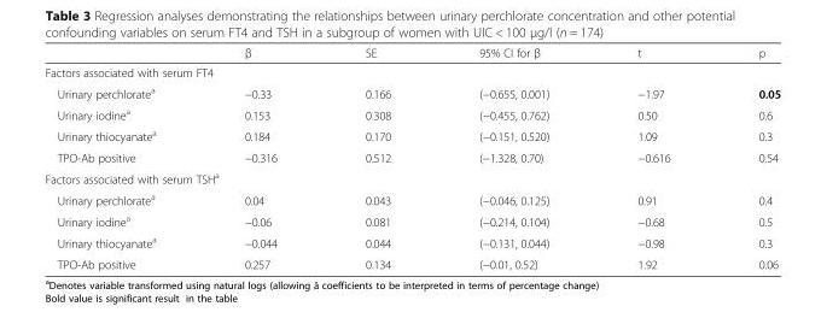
<table><thead><tr><td></td><td>β</td><td>SE</td><td>95% CI for β</td><td>t</td><td>p</td></tr></thead><tbody><tr><td colspan="6">Factors associated with serum FT4</td></tr><tr><td>Urinary perchlorate<sup>a</sup></td><td>−0.33</td><td>0.166</td><td>(−0.655, 0.001)</td><td>−1.97</td><td>0.05</td></tr><tr><td>Urinary iodine<sup>a</sup></td><td>0.153</td><td>0.308</td><td>(−0.455, 0.762)</td><td>0.50</td><td>0.6</td></tr><tr><td>Urinary thiocyanate<sup>a</sup></td><td>0.184</td><td>0.170</td><td>(−0.151, 0.520)</td><td>1.09</td><td>0.3</td></tr><tr><td>TPO-Ab positive</td><td>−0.316</td><td>0.512</td><td>(−1.328, 0.70)</td><td>−0.616</td><td>0.54</td></tr><tr><td colspan="6">Factors associated with serum TSH<sup>a</sup></td></tr><tr><td>Urinary perchlorate<sup>a</sup></td><td>0.04</td><td>0.043</td><td>(−0.046, 0.125)</td><td>0.91</td><td>0.4</td></tr><tr><td>Urinary iodine<sup>a</sup></td><td>−0.06</td><td>0.081</td><td>(−0.214, 0.104)</td><td>−0.68</td><td>0.5</td></tr><tr><td>Urinary thiocyanate<sup>a</sup></td><td>−0.044</td><td>0.044</td><td>(−0.131, 0.044)</td><td>−0.98</td><td>0.3</td></tr><tr><td>TPO-Ab positive</td><td>0.257</td><td>0.134</td><td>(−0.01, 0.52)</td><td>1.92</td><td>0.06</td></tr></tbody></table>